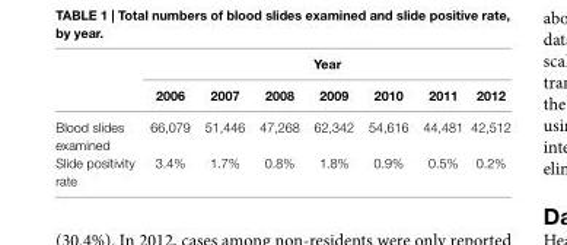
<table><thead><tr><td rowspan="2"></td><td colspan="7">Year</td></tr><tr><td>2006</td><td>2007</td><td>2008</td><td>2009</td><td>2010</td><td>2011</td><td>2012</td></tr></thead><tbody><tr><td>Blood slides examined</td><td>66,079</td><td>51,446</td><td>47,268</td><td>62,342</td><td>54,616</td><td>44,481</td><td>42,512</td></tr><tr><td>Slide positivity rate</td><td>3.4%</td><td>1.7%</td><td>0.8%</td><td>1.8%</td><td>0.9%</td><td>0.5%</td><td>0.2%</td></tr></tbody></table>